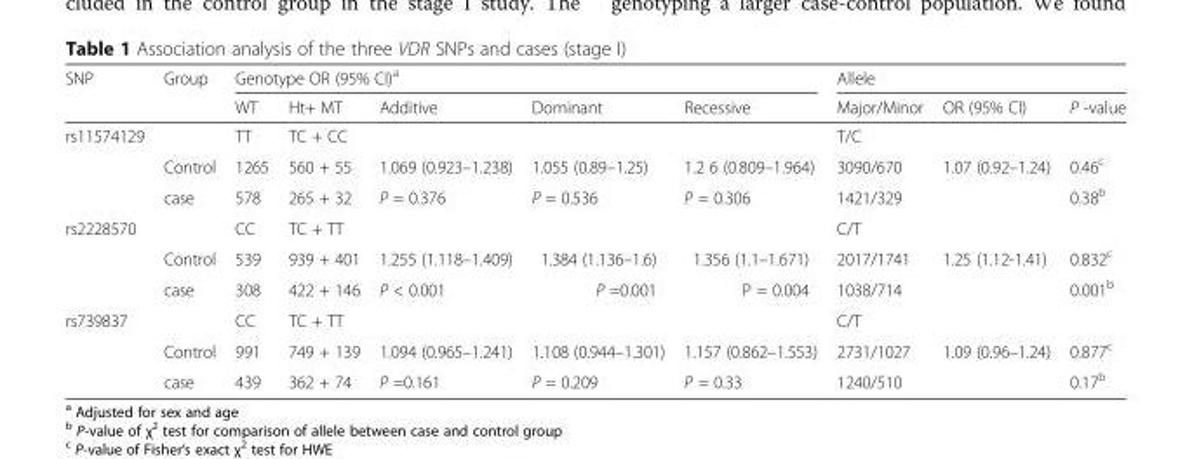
<table><thead><tr><td rowspan="2">SNP</td><td rowspan="2">Group</td><td colspan="5">Genotype OR (95% CI)<sup>a</sup></td><td colspan="3">Allele</td></tr><tr><td>WT</td><td>Ht+ MT</td><td>Additive</td><td>Dominant</td><td>Recessive</td><td>Major/Minor</td><td>OR (95% CI)</td><td>P -value</td></tr></thead><tbody><tr><td rowspan="3">rs11574129</td><td></td><td>TT</td><td>TC + CC</td><td></td><td></td><td></td><td>T/C</td><td></td><td></td></tr><tr><td>Control</td><td>1265</td><td>560 + 55</td><td>1.069 (0.923–1.238)</td><td>1.055 (0.89–1.25)</td><td>1.2 6 (0.809–1.964)</td><td>3090/670</td><td>1.07 (0.92–1.24)</td><td>0.46<sup>c</sup></td></tr><tr><td>case</td><td>578</td><td>265 + 32</td><td>P = 0.376</td><td>P = 0.536</td><td>P = 0.306</td><td>1421/329</td><td></td><td>0.38<sup>b</sup></td></tr><tr><td rowspan="3">rs2228570</td><td></td><td>CC</td><td>TC + TT</td><td></td><td></td><td></td><td>C/T</td><td></td><td></td></tr><tr><td>Control</td><td>539</td><td>939 + 401</td><td>1.255 (1.118–1.409)</td><td>1.384 (1.136–1.6)</td><td>1.356 (1.1–1.671)</td><td>2017/1741</td><td>1.25 (1.12-1.41)</td><td>0.832<sup>c</sup></td></tr><tr><td>case</td><td>308</td><td>422 + 146</td><td>P &lt; 0.001</td><td>P =0.001</td><td>P = 0.004</td><td>1038/714</td><td></td><td>0.001<sup>b</sup></td></tr><tr><td rowspan="3">rs739837</td><td></td><td>CC</td><td>TC + TT</td><td></td><td></td><td></td><td>C/T</td><td></td><td></td></tr><tr><td>Control</td><td>991</td><td>749 + 139</td><td>1.094 (0.965–1.241)</td><td>1.108 (0.944–1.301)</td><td>1.157 (0.862–1.553)</td><td>2731/1027</td><td>1.09 (0.96–1.24)</td><td>0.877<sup>c</sup></td></tr><tr><td>case</td><td>439</td><td>362 + 74</td><td>P =0.161</td><td>P = 0.209</td><td>P = 0.33</td><td>1240/510</td><td></td><td>0.17<sup>b</sup></td></tr></tbody></table>